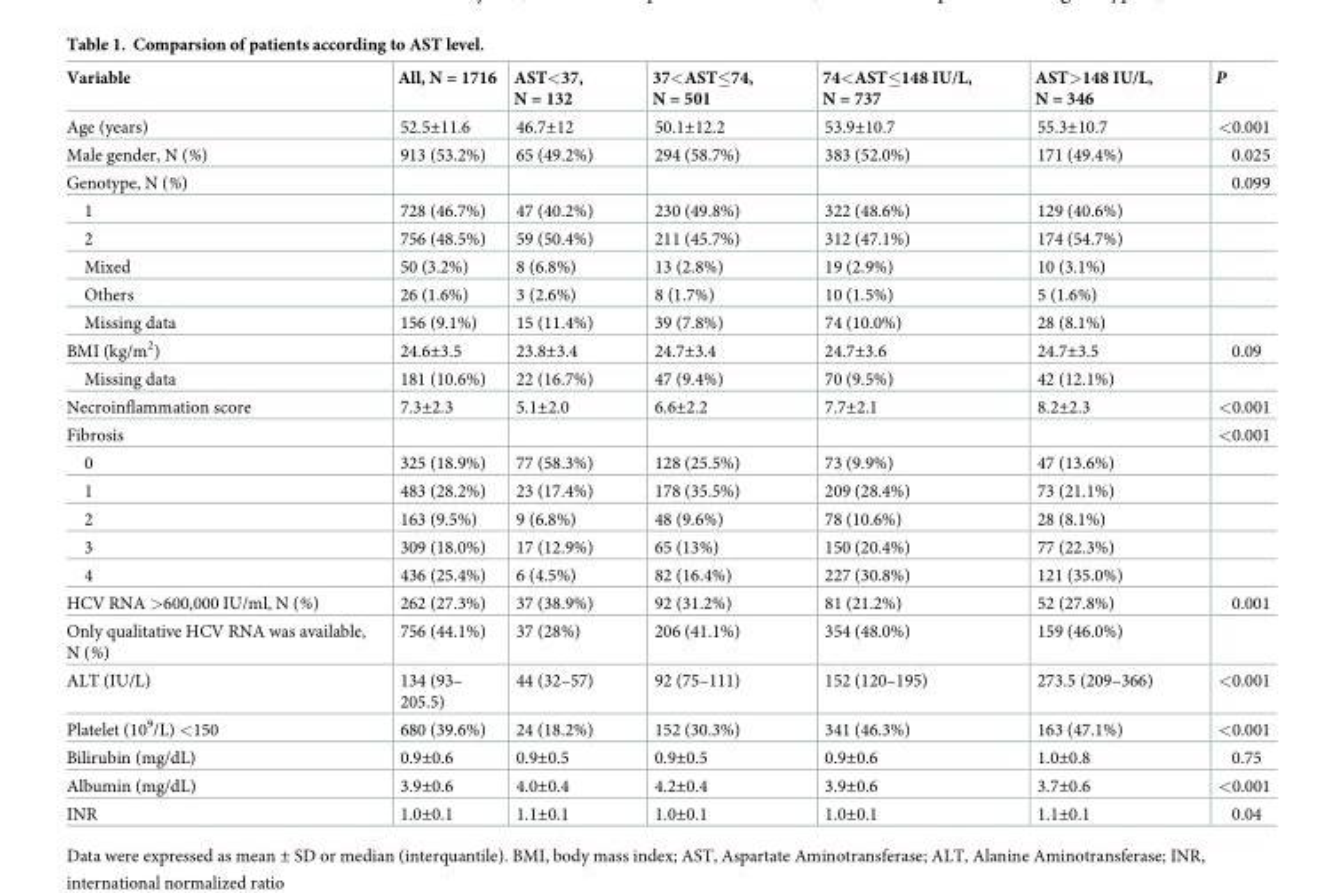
<table><thead><tr><td>Variable</td><td>All, N = 1716</td><td>AST&lt;37, N = 132</td><td>37&lt;AST≤74, N = 501</td><td>74&lt;AST≤148 IU/L, N = 737</td><td>AST&gt;148 IU/L, N = 346</td><td>P</td></tr></thead><tbody><tr><td>Age (years)</td><td>52.5±11.6</td><td>46.7±12</td><td>50.1±12.2</td><td>53.9±10.7</td><td>55.3±10.7</td><td>&lt;0.001</td></tr><tr><td>Male gender, N (%)</td><td>913 (53.2%)</td><td>65 (49.2%)</td><td>294 (58.7%)</td><td>383 (52.0%)</td><td>171 (49.4%)</td><td>0.025</td></tr><tr><td>Genotype, N (%)</td><td></td><td></td><td></td><td></td><td></td><td>0.099</td></tr><tr><td>1</td><td>728 (46.7%)</td><td>47 (40.2%)</td><td>230 (49.8%)</td><td>322 (48.6%)</td><td>129 (40.6%)</td><td></td></tr><tr><td>2</td><td>756 (48.5%)</td><td>59 (50.4%)</td><td>211 (45.7%)</td><td>312 (47.1%)</td><td>174 (54.7%)</td><td></td></tr><tr><td>Mixed</td><td>50 (3.2%)</td><td>8 (6.8%)</td><td>13 (2.8%)</td><td>19 (2.9%)</td><td>10 (3.1%)</td><td></td></tr><tr><td>Others</td><td>26 (1.6%)</td><td>3 (2.6%)</td><td>8 (1.7%)</td><td>10 (1.5%)</td><td>5 (1.6%)</td><td></td></tr><tr><td>Missing data</td><td>156 (9.1%)</td><td>15 (11.4%)</td><td>39 (7.8%)</td><td>74 (10.0%)</td><td>28 (8.1%)</td><td></td></tr><tr><td>BMI (kg/m<sup>2</sup>)</td><td>24.6±3.5</td><td>23.8±3.4</td><td>24.7±3.4</td><td>24.7±3.6</td><td>24.7±3.5</td><td>0.09</td></tr><tr><td>Missing data</td><td>181 (10.6%)</td><td>22 (16.7%)</td><td>47 (9.4%)</td><td>70 (9.5%)</td><td>42 (12.1%)</td><td></td></tr><tr><td>Necroinflammation score</td><td>7.3±2.3</td><td>5.1±2.0</td><td>6.6±2.2</td><td>7.7±2.1</td><td>8.2±2.3</td><td>&lt;0.001</td></tr><tr><td>Fibrosis</td><td></td><td></td><td></td><td></td><td></td><td>&lt;0.001</td></tr><tr><td>0</td><td>325 (18.9%)</td><td>77 (58.3%)</td><td>128 (25.5%)</td><td>73 (9.9%)</td><td>47 (13.6%)</td><td></td></tr><tr><td>1</td><td>483 (28.2%)</td><td>23 (17.4%)</td><td>178 (35.5%)</td><td>209 (28.4%)</td><td>73 (21.1%)</td><td></td></tr><tr><td>2</td><td>163 (9.5%)</td><td>9 (6.8%)</td><td>48 (9.6%)</td><td>78 (10.6%)</td><td>28 (8.1%)</td><td></td></tr><tr><td>3</td><td>309 (18.0%)</td><td>17 (12.9%)</td><td>65 (13%)</td><td>150 (20.4%)</td><td>77 (22.3%)</td><td></td></tr><tr><td>4</td><td>436 (25.4%)</td><td>6 (4.5%)</td><td>82 (16.4%)</td><td>227 (30.8%)</td><td>121 (35.0%)</td><td></td></tr><tr><td>HCV RNA &gt;600,000 IU/ml, N (%)</td><td>262 (27.3%)</td><td>37 (38.9%)</td><td>92 (31.2%)</td><td>81 (21.2%)</td><td>52 (27.8%)</td><td>0.001</td></tr><tr><td>Only qualitative HCV RNA was available, N (%)</td><td>756 (44.1%)</td><td>37 (28%)</td><td>206 (41.1%)</td><td>354 (48.0%)</td><td>159 (46.0%)</td><td></td></tr><tr><td>ALT (IU/L)</td><td>134 (93– 205.5)</td><td>44 (32–57)</td><td>92 (75–111)</td><td>152 (120–195)</td><td>273.5 (209–366)</td><td>&lt;0.001</td></tr><tr><td>Platelet (10<sup>9</sup>/L) &lt;150</td><td>680 (39.6%)</td><td>24 (18.2%)</td><td>152 (30.3%)</td><td>341 (46.3%)</td><td>163 (47.1%)</td><td>&lt;0.001</td></tr><tr><td>Bilirubin (mg/dL)</td><td>0.9±0.6</td><td>0.9±0.5</td><td>0.9±0.5</td><td>0.9±0.6</td><td>1.0±0.8</td><td>0.75</td></tr><tr><td>Albumin (mg/dL)</td><td>3.9±0.6</td><td>4.0±0.4</td><td>4.2±0.4</td><td>3.9±0.6</td><td>3.7±0.6</td><td>&lt;0.001</td></tr><tr><td>INR</td><td>1.0±0.1</td><td>1.1±0.1</td><td>1.0±0.1</td><td>1.0±0.1</td><td>1.1±0.1</td><td>0.04</td></tr></tbody></table>